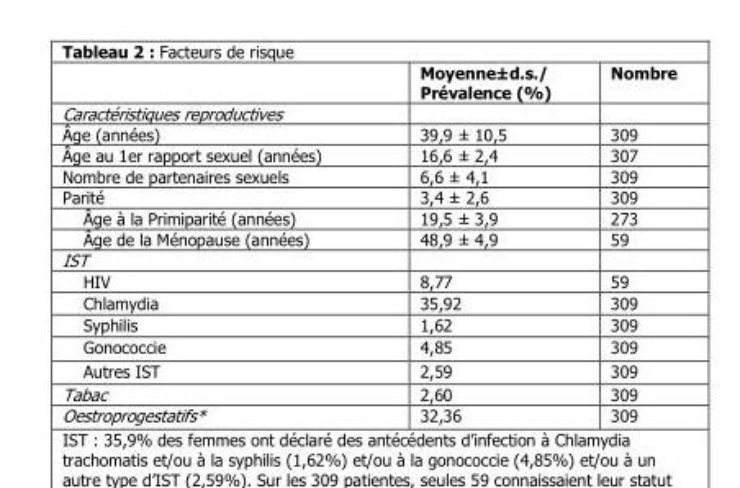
<table><thead><tr><td></td><td>Moyenne±d.s./ Prévalence (%)</td><td>Nombre</td></tr></thead><tbody><tr><td colspan="3">Caractéristiques reproductives</td></tr><tr><td>Âge (années)</td><td>39,9 ± 10,5</td><td>309</td></tr><tr><td>Âge au 1er rapport sexuel (années)</td><td>16,6 ± 2,4</td><td>307</td></tr><tr><td>Nombre de partenaires sexuels</td><td>6,6 ± 4,1</td><td>309</td></tr><tr><td>Parité</td><td>3,4 ± 2,6</td><td>309</td></tr><tr><td>Âge à la Primiparité (années)</td><td>19,5 ± 3,9</td><td>273</td></tr><tr><td>Âge de la Ménopause (années)</td><td>48,9 ± 4,9</td><td>59</td></tr><tr><td colspan="3">IST</td></tr><tr><td>HIV</td><td>8,77</td><td>59</td></tr><tr><td>Chlamydia</td><td>35,92</td><td>309</td></tr><tr><td>Syphilis</td><td>1,62</td><td>309</td></tr><tr><td>Gonococcie</td><td>4,85</td><td>309</td></tr><tr><td>Autres IST</td><td>2,59</td><td>309</td></tr><tr><td>Tabac</td><td>2,60</td><td>309</td></tr><tr><td>Oestroprogestatifs*</td><td>32,36</td><td>309</td></tr></tbody></table>